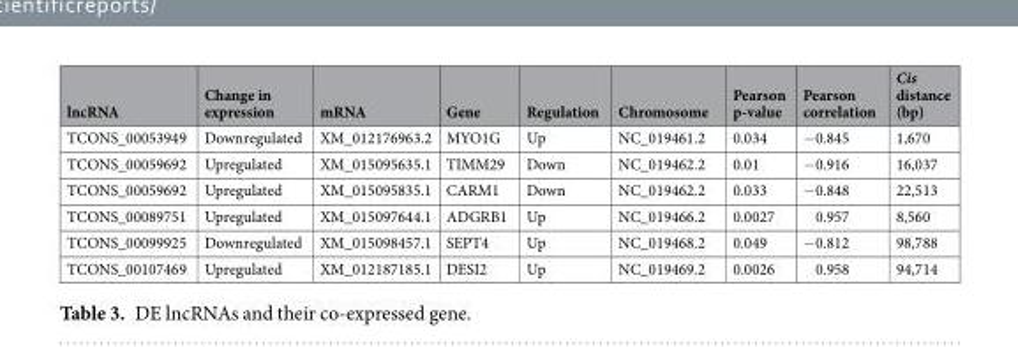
<table><thead><tr><td>lncRNA</td><td>Change in expression</td><td>mRNA</td><td>Gene</td><td>Regulation</td><td>Chromosome</td><td>Pearson p-value</td><td>Pearson correlation</td><td>Cis distance (bp)</td></tr></thead><tbody><tr><td>TCONS_00053949</td><td>Downregulated</td><td>XM_012176963.2</td><td>MYO1G</td><td>Up</td><td>NC_019461.2</td><td>0.034</td><td>−0.845</td><td>1,670</td></tr><tr><td>TCONS_00059692</td><td>Upregulated</td><td>XM_015095635.1</td><td>TIMM29</td><td>Down</td><td>NC_019462.2</td><td>0.01</td><td>−0.916</td><td>16,037</td></tr><tr><td>TCONS_00059692</td><td>Upregulated</td><td>XM_015095835.1</td><td>CARM1</td><td>Down</td><td>NC_019462.2</td><td>0.033</td><td>−0.848</td><td>22,513</td></tr><tr><td>TCONS_00089751</td><td>Upregulated</td><td>XM_015097644.1</td><td>ADGRB1</td><td>Up</td><td>NC_019466.2</td><td>0.0027</td><td>0.957</td><td>8,560</td></tr><tr><td>TCONS_00099925</td><td>Downregulated</td><td>XM_015098457.1</td><td>SEPT4</td><td>Up</td><td>NC_019468.2</td><td>0.049</td><td>−0.812</td><td>98,788</td></tr><tr><td>TCONS_00107469</td><td>Upregulated</td><td>XM_012187185.1</td><td>DESI2</td><td>Up</td><td>NC_019469.2</td><td>0.0026</td><td>0.958</td><td>94,714</td></tr></tbody></table>